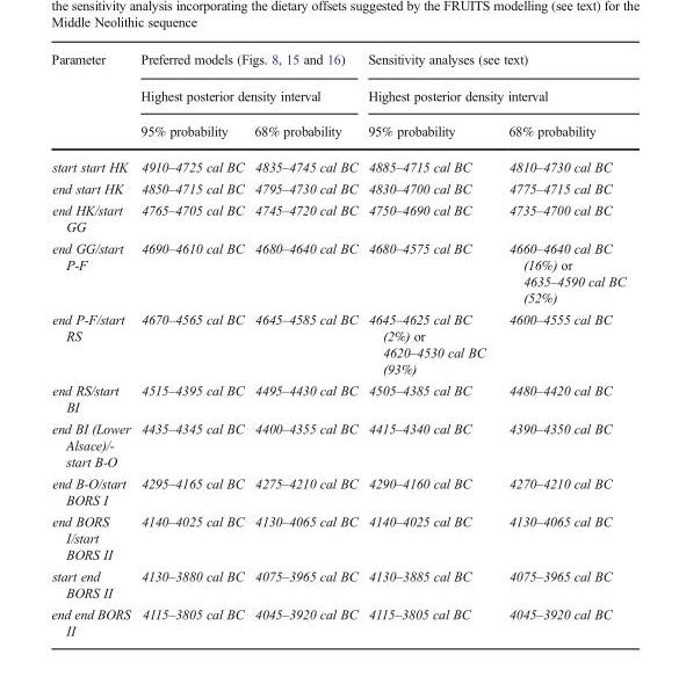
<table><thead><tr><td rowspan="3">Parameter</td><td rowspan="2" colspan="2">Preferred models (Figs. 8, 15 and 16) Highest posterior density interval</td><td rowspan="2" colspan="2">Sensitivity analyses (see text) Highest posterior density interval</td></tr><tr></tr><tr><td>95% probability</td><td>68% probability</td><td>95% probability</td><td>68% probability</td></tr></thead><tbody><tr><td>start start HK</td><td>4910–4725 cal BC</td><td>4835–4745 cal BC</td><td>4885–4715 cal BC</td><td>4810–4730 cal BC</td></tr><tr><td>end start HK</td><td>4850–4715 cal BC</td><td>4795–4730 cal BC</td><td>4830–4700 cal BC</td><td>4775–4715 cal BC</td></tr><tr><td>end HK/start GG</td><td>4765–4705 cal BC</td><td>4745–4720 cal BC</td><td>4750–4690 cal BC</td><td>4735–4700 cal BC</td></tr><tr><td>end GG/start P-F</td><td>4690–4610 cal BC</td><td>4680–4640 cal BC</td><td>4680–4575 cal BC</td><td>4660–4640 cal BC (16%) or 4635–4590 cal BC (52%)</td></tr><tr><td>end P-F/start RS</td><td>4670–4565 cal BC</td><td>4645–4585 cal BC</td><td>4645–4625 cal BC (2%) or 4620–4530 cal BC (93%)</td><td>4600–4555 cal BC</td></tr><tr><td>end RS/start BI</td><td>4515–4395 cal BC</td><td>4495–4430 cal BC</td><td>4505–4385 cal BC</td><td>4480–4420 cal BC</td></tr><tr><td>end BI (Lower Alsace)/- start B-O</td><td>4435–4345 cal BC</td><td>4400–4355 cal BC</td><td>4415–4340 cal BC</td><td>4390–4350 cal BC</td></tr><tr><td>end B-O/start BORS I</td><td>4295–4165 cal BC</td><td>4275–4210 cal BC</td><td>4290–4160 cal BC</td><td>4270–4210 cal BC</td></tr><tr><td>end BORS I/start BORS II</td><td>4140–4025 cal BC</td><td>4130–4065 cal BC</td><td>4140–4025 cal BC</td><td>4130–4065 cal BC</td></tr><tr><td>start end BORS II</td><td>4130–3880 cal BC</td><td>4075–3965 cal BC</td><td>4130–3885 cal BC</td><td>4075–3965 cal BC</td></tr><tr><td>end end BORS II</td><td>4115–3805 cal BC</td><td>4045–3920 cal BC</td><td>4115–3805 cal BC</td><td>4045–3920 cal BC</td></tr></tbody></table>